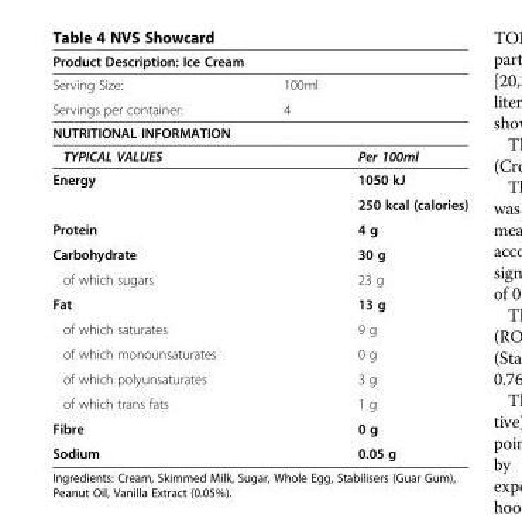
<table><thead><tr><td>Product Description: Ice Cream</td><td></td><td></td></tr></thead><tbody><tr><td>Serving Size:</td><td>100ml</td><td></td></tr><tr><td>Servings per container:</td><td>4</td><td></td></tr><tr><td colspan="3">NUTRITIONAL INFORMATION</td></tr><tr><td>TYPICAL VALUES</td><td></td><td>Per 100ml</td></tr><tr><td rowspan="2">Energy</td><td></td><td>1050 kJ</td></tr><tr><td></td><td>250 kcal (calories)</td></tr><tr><td>Protein</td><td></td><td>4 g</td></tr><tr><td>Carbohydrate</td><td></td><td>30 g</td></tr><tr><td>of which sugars</td><td></td><td>23 g</td></tr><tr><td>Fat</td><td></td><td>13 g</td></tr><tr><td>of which saturates</td><td></td><td>9 g</td></tr><tr><td>of which monounsaturates</td><td></td><td>0 g</td></tr><tr><td>of which polyunsaturates</td><td></td><td>3 g</td></tr><tr><td>of which trans fats</td><td></td><td>1 g</td></tr><tr><td>Fibre</td><td></td><td>0 g</td></tr><tr><td>Sodium</td><td></td><td>0.05 g</td></tr></tbody></table>